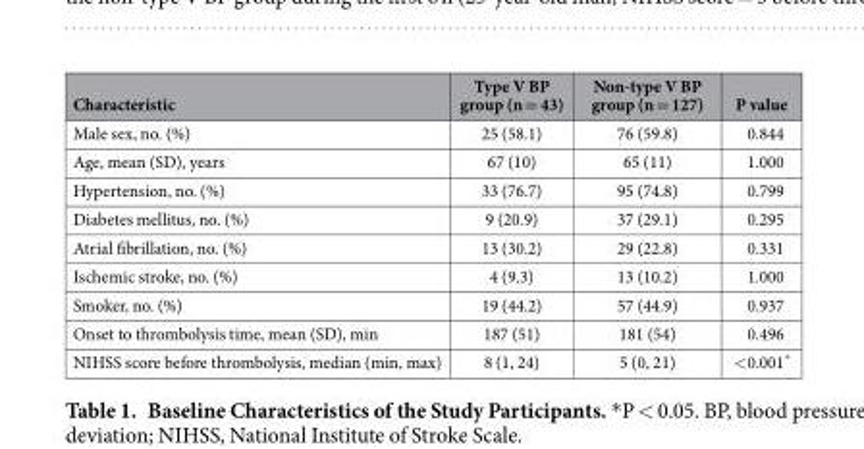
<table><thead><tr><td>Characteristic</td><td>Type V BP group (n = 43)</td><td>Non-type V BP group (n = 127)</td><td>P value</td></tr></thead><tbody><tr><td>Male sex, no. (%)</td><td>25 (58.1)</td><td>76 (59.8)</td><td>0.844</td></tr><tr><td>Age, mean (SD), years</td><td>67 (10)</td><td>65 (11)</td><td>1.000</td></tr><tr><td>Hypertension, no. (%)</td><td>33 (76.7)</td><td>95 (74.8)</td><td>0.799</td></tr><tr><td>Diabetes mellitus, no. (%)</td><td>9 (20.9)</td><td>37 (29.1)</td><td>0.295</td></tr><tr><td>Atrial fibrillation, no. (%)</td><td>13 (30.2)</td><td>29 (22.8)</td><td>0.331</td></tr><tr><td>Ischemic stroke, no. (%)</td><td>4 (9.3)</td><td>13 (10.2)</td><td>1.000</td></tr><tr><td>Smoker, no. (%)</td><td>19 (44.2)</td><td>57 (44.9)</td><td>0.937</td></tr><tr><td>Onset to thrombolysis time, mean (SD), min</td><td>187 (51)</td><td>181 (54)</td><td>0.496</td></tr><tr><td>NIHSS score before thrombolysis, median (min, max)</td><td>8 (1, 24)</td><td>5 (0, 21)</td><td>&lt; 0.001*</td></tr></tbody></table>